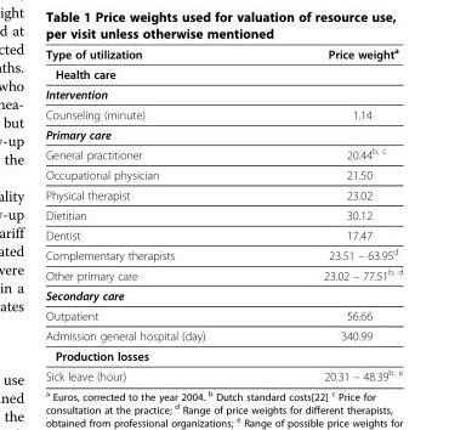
<table><thead><tr><td>Type of utilization</td><td>Price weight<sup>a</sup></td></tr></thead><tbody><tr><td colspan="2">Health care</td></tr><tr><td colspan="2">Intervention</td></tr><tr><td>Counseling (minute)</td><td>1.14</td></tr><tr><td colspan="2">Primary care</td></tr><tr><td>General practitioner</td><td>20.44<sup>b, c</sup></td></tr><tr><td>Occupational physician</td><td>21.50</td></tr><tr><td>Physical therapist</td><td>23.02</td></tr><tr><td>Dietitian</td><td>30.12</td></tr><tr><td>Dentist</td><td>17.47</td></tr><tr><td>Complementary therapists</td><td>23.51 – 63.95<sup>d</sup></td></tr><tr><td>Other primary care</td><td>23.02 – 77.51<sup>b, d</sup></td></tr><tr><td colspan="2">Secondary care</td></tr><tr><td>Outpatient</td><td>56.66</td></tr><tr><td>Admission general hospital (day)</td><td>340.99</td></tr><tr><td colspan="2">Production losses</td></tr><tr><td>Sick leave (hour)</td><td>20.31 – 48.39<sup>b, e</sup></td></tr></tbody></table>